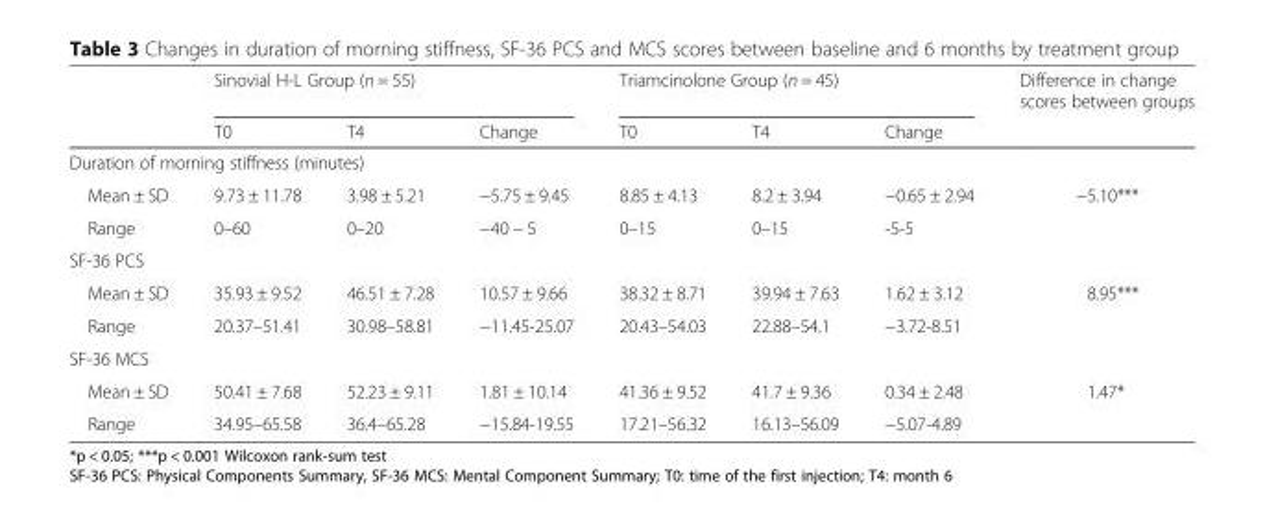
<table><thead><tr><td rowspan="2"></td><td colspan="3">Sinovial H-L Group (n = 55)</td><td colspan="3">Triamcinolone Group (n = 45)</td><td rowspan="2">Difference in change scores between groups</td></tr><tr><td>T0</td><td>T4</td><td>Change</td><td>T0</td><td>T4</td><td>Change</td></tr></thead><tbody><tr><td colspan="8">Duration of morning stiffness (minutes)</td></tr><tr><td>Mean ± SD</td><td>9.73 ± 11.78</td><td>3.98 ± 5.21</td><td>−5.75 ± 9.45</td><td>8.85 ± 4.13</td><td>8.2 ± 3.94</td><td>−0.65 ± 2.94</td><td>−5.10***</td></tr><tr><td>Range</td><td>0–60</td><td>0–20</td><td>−40 − 5</td><td>0–15</td><td>0–15</td><td>-5-5</td><td></td></tr><tr><td colspan="8">SF-36 PCS</td></tr><tr><td>Mean ± SD</td><td>35.93 ± 9.52</td><td>46.51 ± 7.28</td><td>10.57 ± 9.66</td><td>38.32 ± 8.71</td><td>39.94 ± 7.63</td><td>1.62 ± 3.12</td><td>8.95***</td></tr><tr><td>Range</td><td>20.37–51.41</td><td>30.98–58.81</td><td>−11.45-25.07</td><td>20.43–54.03</td><td>22.88–54.1</td><td>−3.72-8.51</td><td></td></tr><tr><td colspan="8">SF-36 MCS</td></tr><tr><td>Mean ± SD</td><td>50.41 ± 7.68</td><td>52.23 ± 9.11</td><td>1.81 ± 10.14</td><td>41.36 ± 9.52</td><td>41.7 ± 9.36</td><td>0.34 ± 2.48</td><td>1.47*</td></tr><tr><td>Range</td><td>34.95–65.58</td><td>36.4–65.28</td><td>−15.84-19.55</td><td>17.21–56.32</td><td>16.13–56.09</td><td>−5.07-4.89</td><td></td></tr></tbody></table>